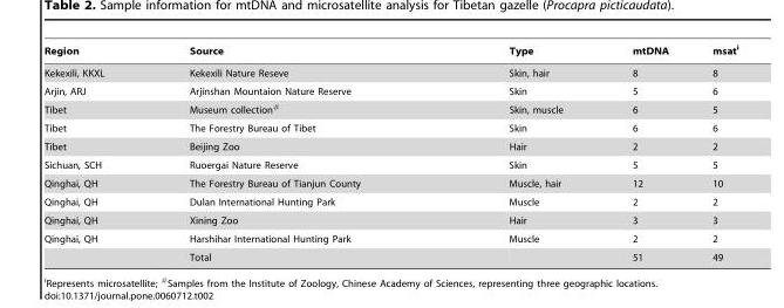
<table><thead><tr><td>Region</td><td>Source</td><td>Type</td><td>mtDNA</td><td>msat<sup>i</sup></td></tr></thead><tbody><tr><td>Kekexili, KKXL</td><td>Kekexili Nature Reseve</td><td>Skin, hair</td><td>8</td><td>8</td></tr><tr><td>Arjin, ARJ</td><td>Arjinshan Mountaion Nature Reserve</td><td>Skin</td><td>5</td><td>6</td></tr><tr><td>Tibet</td><td>Museum collection<sup>#</sup></td><td>Skin, muscle</td><td>6</td><td>5</td></tr><tr><td>Tibet</td><td>The Forestry Bureau of Tibet</td><td>Skin</td><td>6</td><td>6</td></tr><tr><td>Tibet</td><td>Beijing Zoo</td><td>Hair</td><td>2</td><td>2</td></tr><tr><td>Sichuan, SCH</td><td>Ruoergai Nature Reserve</td><td>Skin</td><td>5</td><td>5</td></tr><tr><td>Qinghai, QH</td><td>The Forestry Bureau of Tianjun County</td><td>Muscle, hair</td><td>12</td><td>10</td></tr><tr><td>Qinghai, QH</td><td>Dulan International Hunting Park</td><td>Muscle</td><td>2</td><td>2</td></tr><tr><td>Qinghai, QH</td><td>Xining Zoo</td><td>Hair</td><td>3</td><td>3</td></tr><tr><td rowspan="2">Qinghai, QH</td><td>Harshihar International Hunting Park</td><td>Muscle</td><td>2</td><td>2</td></tr><tr><td>Total</td><td></td><td>51</td><td>49</td></tr></tbody></table>